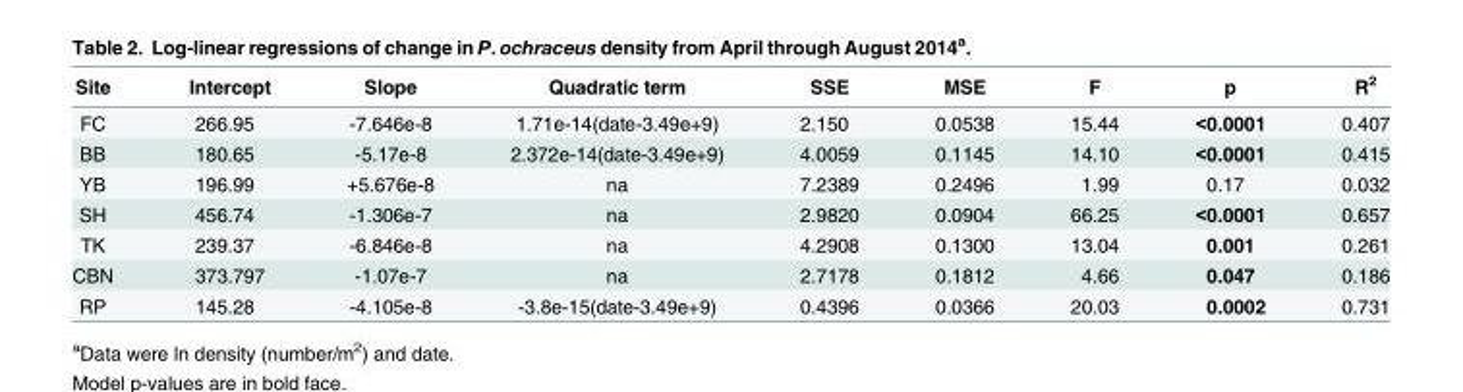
<table><thead><tr><td>Site</td><td>Intercept</td><td>Slope</td><td>Quadratic term</td><td>SSE</td><td>MSE</td><td>F</td><td>p</td><td>R<sup>2</sup></td></tr></thead><tbody><tr><td>FC</td><td>266.95</td><td>-7.646e-8</td><td>1.71e-14(date-3.49e+9)</td><td>2.150</td><td>0.0538</td><td>15.44</td><td>&lt;0.0001</td><td>0.407</td></tr><tr><td>BB</td><td>180.65</td><td>-5.17e-8</td><td>2.372e-14(date-3.49e+9)</td><td>4.0059</td><td>0.1145</td><td>14.10</td><td>&lt;0.0001</td><td>0.415</td></tr><tr><td>YB</td><td>196.99</td><td>+5.676e-8</td><td>na</td><td>7.2389</td><td>0.2496</td><td>1.99</td><td>0.17</td><td>0.032</td></tr><tr><td>SH</td><td>456.74</td><td>-1.306e-7</td><td>na</td><td>2.9820</td><td>0.0904</td><td>66.25</td><td>&lt;0.0001</td><td>0.657</td></tr><tr><td>TK</td><td>239.37</td><td>-6.846e-8</td><td>na</td><td>4.2908</td><td>0.1300</td><td>13.04</td><td>0.001</td><td>0.261</td></tr><tr><td>CBN</td><td>373.797</td><td>-1.07e-7</td><td>na</td><td>2.7178</td><td>0.1812</td><td>4.66</td><td>0.047</td><td>0.186</td></tr><tr><td>RP</td><td>145.28</td><td>-4.105e-8</td><td>-3.8e-15(date-3.49e+9)</td><td>0.4396</td><td>0.0366</td><td>20.03</td><td>0.0002</td><td>0.731</td></tr></tbody></table>